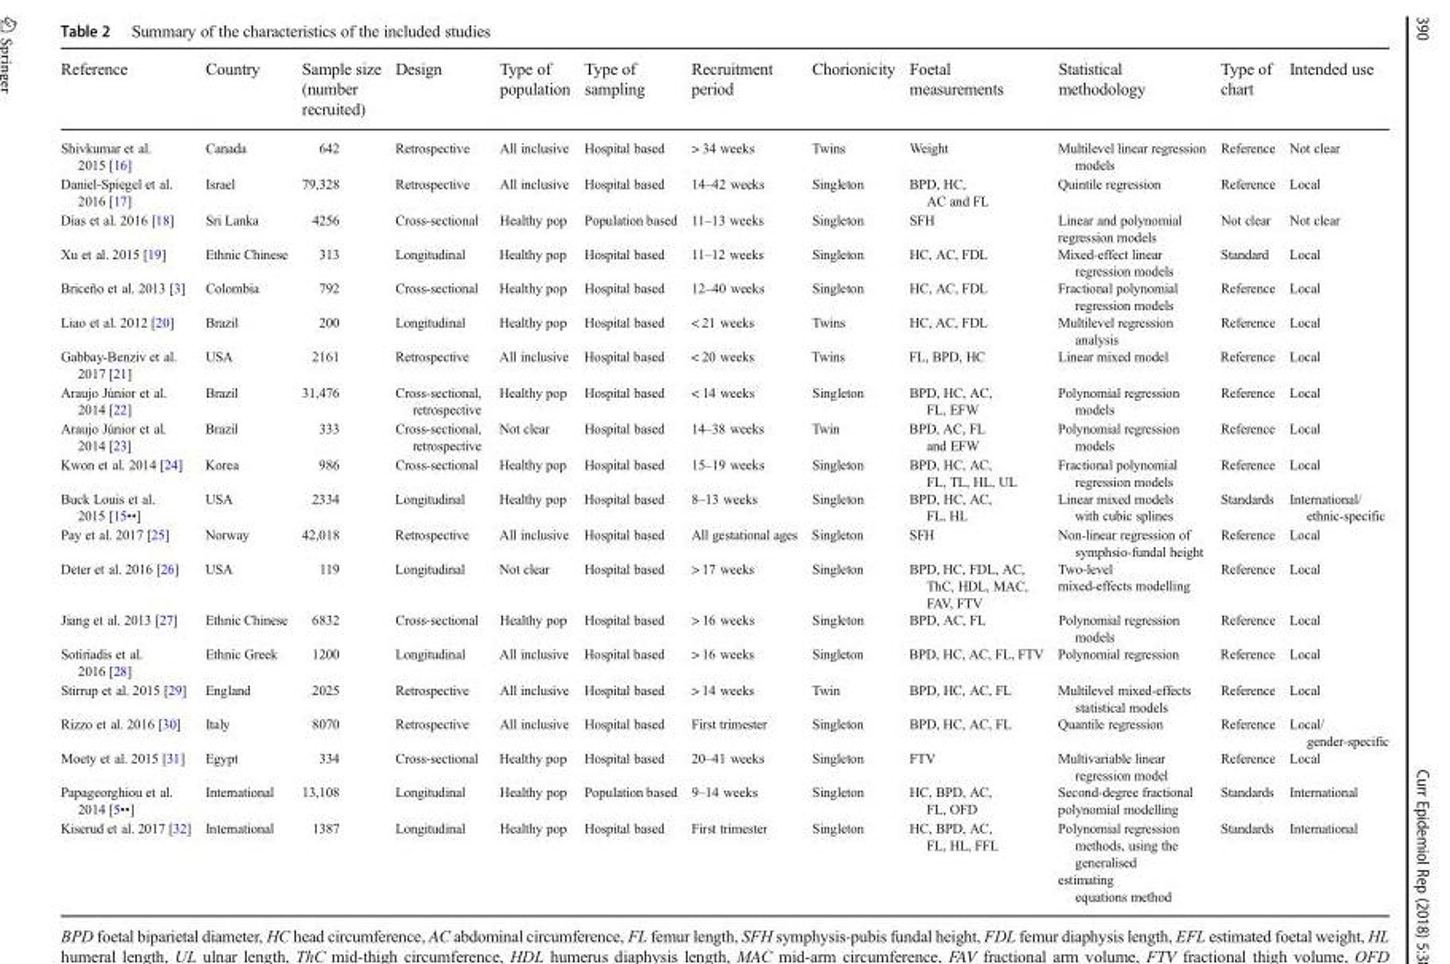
<table><thead><tr><td>Reference</td><td>Country</td><td>Sample size (number recruited)</td><td>Design</td><td>Type of population</td><td>Type of sampling</td><td>Recruitment period</td><td>Chorionicity</td><td>Foetal measurements</td><td>Statistical methodology</td><td>Type of chart</td><td>Intended use</td></tr></thead><tbody><tr><td>Shivkumar et al. 2015 [16]</td><td>Canada</td><td>642</td><td>Retrospective</td><td>All inclusive</td><td>Hospital based</td><td>&gt; 34 weeks</td><td>Twins</td><td>Weight</td><td>Multilevel linear regression models</td><td>Reference</td><td>Not clear</td></tr><tr><td>Daniel-Spiegel et al. 2016 [17]</td><td>Israel</td><td>79,328</td><td>Retrospective</td><td>All inclusive</td><td>Hospital based</td><td>14–42 weeks</td><td>Singleton</td><td>BPD, HC, AC and FL</td><td>Quintile regression</td><td>Reference</td><td>Local</td></tr><tr><td>Dias et al. 2016 [18]</td><td>Sri Lanka</td><td>4256</td><td>Cross-sectional</td><td>Healthy pop</td><td>Population based</td><td>11–13 weeks</td><td>Singleton</td><td>SFH</td><td>Linear and polynomial regression models</td><td>Not clear</td><td>Not clear</td></tr><tr><td>Xu et al. 2015 [19]</td><td>Ethnic Chinese</td><td>313</td><td>Longitudinal</td><td>Healthy pop</td><td>Hospital based</td><td>11–12 weeks</td><td>Singleton</td><td>HC, AC, FDL</td><td>Mixed-effect linear regression models</td><td>Standard</td><td>Local</td></tr><tr><td>Briceño et al. 2013 [3]</td><td>Colombia</td><td>792</td><td>Cross-sectional</td><td>Healthy pop</td><td>Hospital based</td><td>12–40 weeks</td><td>Singleton</td><td>HC, AC, FDL</td><td>Fractional polynomial regression models</td><td>Reference</td><td>Local</td></tr><tr><td>Liao et al. 2012 [20]</td><td>Brazil</td><td>200</td><td>Longitudinal</td><td>Healthy pop</td><td>Hospital based</td><td>&lt; 21 weeks</td><td>Twins</td><td>HC, AC, FDL</td><td>Multilevel regression analysis</td><td>Reference</td><td>Local</td></tr><tr><td>Gabbay-Benziv et al. 2017 [21]</td><td>USA</td><td>2161</td><td>Retrospective</td><td>All inclusive</td><td>Hospital based</td><td>&lt; 20 weeks</td><td>Twins</td><td>FL, BPD, HC</td><td>Linear mixed model</td><td>Reference</td><td>Local</td></tr><tr><td>Araujo Júnior et al. 2014 [22]</td><td>Brazil</td><td>31,476</td><td>Cross-sectional, retrospective</td><td>Healthy pop</td><td>Hospital based</td><td>&lt; 14 weeks</td><td>Singleton</td><td>BPD, HC, AC, FL, EFW</td><td>Polynomial regression models</td><td>Reference</td><td>Local</td></tr><tr><td>Araujo Júnior et al. 2014 [23]</td><td>Brazil</td><td>333</td><td>Cross-sectional, retrospective</td><td>Not clear</td><td>Hospital based</td><td>14–38 weeks</td><td>Twin</td><td>BPD, AC, FL and EFW</td><td>Polynomial regression models</td><td>Reference</td><td>Local</td></tr><tr><td>Kwon et al. 2014 [24]</td><td>Korea</td><td>986</td><td>Cross-sectional</td><td>Healthy pop</td><td>Hospital based</td><td>15–19 weeks</td><td>Singleton</td><td>BPD, HC, AC, FL, TL, HL, UL</td><td>Fractional polynomial regression models</td><td>Reference</td><td>Local</td></tr><tr><td>Buck Louis et al. 2015 [15••]</td><td>USA</td><td>2334</td><td>Longitudinal</td><td>Healthy pop</td><td>Hospital based</td><td>8–13 weeks</td><td>Singleton</td><td>BPD, HC, AC, FL, HL</td><td>Linear mixed models with cubic splines</td><td>Standards</td><td>International/ ethnic-specific</td></tr><tr><td>Pay et al. 2017 [25]</td><td>Norway</td><td>42,018</td><td>Retrospective</td><td>All inclusive</td><td>Hospital based</td><td>All gestational ages</td><td>Singleton</td><td>SFH</td><td>Non-linear regression of symphsio-fundal height</td><td>Reference</td><td>Local</td></tr><tr><td>Deter et al. 2016 [26]</td><td>USA</td><td>119</td><td>Longitudinal</td><td>Not clear</td><td>Hospital based</td><td>&gt; 17 weeks</td><td>Singleton</td><td>BPD, HC, FDL, AC, ThC, HDL, MAC, FAV, FTV</td><td>Two-level mixed-effects modelling</td><td>Reference</td><td>Local</td></tr><tr><td>Jiang et al. 2013 [27]</td><td>Ethnic Chinese</td><td>6832</td><td>Cross-sectional</td><td>Healthy pop</td><td>Hospital based</td><td>&gt; 16 weeks</td><td>Singleton</td><td>BPD, AC, FL</td><td>Polynomial regression models</td><td>Reference</td><td>Local</td></tr><tr><td>Sotiriadis et al. 2016 [28]</td><td>Ethnic Greek</td><td>1200</td><td>Longitudinal</td><td>All inclusive</td><td>Hospital based</td><td>&gt; 16 weeks</td><td>Singleton</td><td>BPD, HC, AC, FL, FTV</td><td>Polynomial regression</td><td>Reference</td><td>Local</td></tr><tr><td>Stirrup et al. 2015 [29]</td><td>England</td><td>2025</td><td>Retrospective</td><td>All inclusive</td><td>Hospital based</td><td>&gt; 14 weeks</td><td>Twin</td><td>BPD, HC, AC, FL</td><td>Multilevel mixed-effects statistical models</td><td>Reference</td><td>Local</td></tr><tr><td>Rizzo et al. 2016 [30]</td><td>Italy</td><td>8070</td><td>Retrospective</td><td>All inclusive</td><td>Hospital based</td><td>First trimester</td><td>Singleton</td><td>BPD, HC, AC, FL</td><td>Quantile regression</td><td>Reference</td><td>Local/ gender-specific</td></tr><tr><td>Moety et al. 2015 [31]</td><td>Egypt</td><td>334</td><td>Cross-sectional</td><td>Healthy pop</td><td>Hospital based</td><td>20–41 weeks</td><td>Singleton</td><td>FTV</td><td>Multivariable linear regression model</td><td>Reference</td><td>Local</td></tr><tr><td>Papageorghiou et al. 2014 [5••]</td><td>International</td><td>13,108</td><td>Longitudinal</td><td>Healthy pop</td><td>Population based</td><td>9–14 weeks</td><td>Singleton</td><td>HC, BPD, AC, FL, OFD</td><td>Second-degree fractional polynomial modelling</td><td>Standards</td><td>International</td></tr><tr><td>Kiserud et al. 2017 [32]</td><td>International</td><td>1387</td><td>Longitudinal</td><td>Healthy pop</td><td>Hospital based</td><td>First trimester</td><td>Singleton</td><td>HC, BPD, AC, FL, HL, FFL</td><td>Polynomial regression methods, using the generalised estimating equations method</td><td>Standards</td><td>International</td></tr></tbody></table>